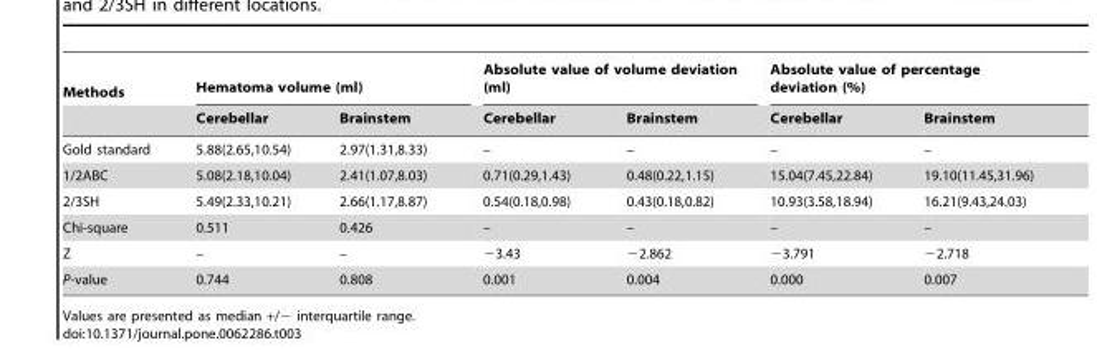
<table><thead><tr><td rowspan="2">Methods</td><td colspan="2">Hematoma volume (ml)</td><td colspan="2">Absolute value of volume deviation (ml)</td><td colspan="2">Absolute value of percentage deviation (%)</td></tr><tr><td>Cerebellar</td><td>Brainstem</td><td>Cerebellar</td><td>Brainstem</td><td>Cerebellar</td><td>Brainstem</td></tr></thead><tbody><tr><td>Gold standard</td><td>5.88(2.65,10.54)</td><td>2.97(1.31,8.33)</td><td>–</td><td>–</td><td>–</td><td>–</td></tr><tr><td>1/2ABC</td><td>5.08(2.18,10.04)</td><td>2.41(1.07,8.03)</td><td>0.71(0.29,1.43)</td><td>0.48(0.22,1.15)</td><td>15.04(7.45,22.84)</td><td>19.10(11.45,31.96)</td></tr><tr><td>2/3SH</td><td>5.49(2.33,10.21)</td><td>2.66(1.17,8.87)</td><td>0.54(0.18,0.98)</td><td>0.43(0.18,0.82)</td><td>10.93(3.58,18.94)</td><td>16.21(9.43,24.03)</td></tr><tr><td>Chi-square</td><td>0.511</td><td>0.426</td><td>–</td><td>–</td><td>–</td><td>–</td></tr><tr><td>Z</td><td>–</td><td>–</td><td>−3.43</td><td>−2.862</td><td>−3.791</td><td>−2.718</td></tr><tr><td>P-value</td><td>0.744</td><td>0.808</td><td>0.001</td><td>0.004</td><td>0.000</td><td>0.007</td></tr></tbody></table>